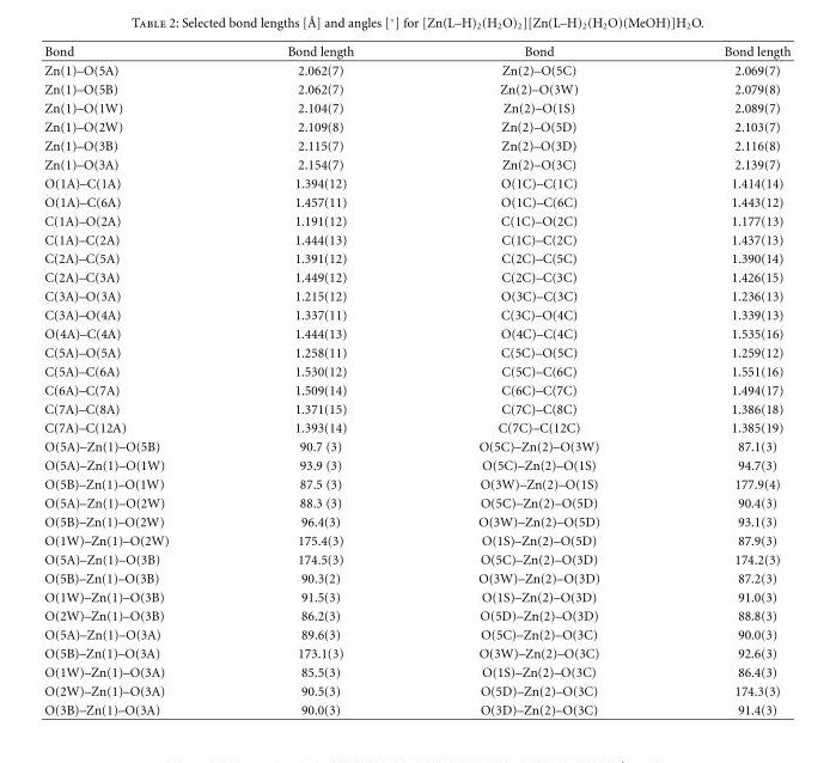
<table><thead><tr><td>Bond</td><td>Bond length</td><td>Bond</td><td>Bond length</td></tr></thead><tbody><tr><td>Zn(1)–O(5A)</td><td>2.062(7)</td><td>Zn(2)–O(5C)</td><td>2.069(7)</td></tr><tr><td>Zn(1)–O(5B)</td><td>2.062(7)</td><td>Zn(2)–O(3W)</td><td>2.079(8)</td></tr><tr><td>Zn(1)–O(1W)</td><td>2.104(7)</td><td>Zn(2)–O(1S)</td><td>2.089(7)</td></tr><tr><td>Zn(1)–O(2W)</td><td>2.109(8)</td><td>Zn(2)–O(5D)</td><td>2.103(7)</td></tr><tr><td>Zn(1)–O(3B)</td><td>2.115(7)</td><td>Zn(2)–O(3D)</td><td>2.116(8)</td></tr><tr><td>Zn(1)–O(3A)</td><td>2.154(7)</td><td>Zn(2)–O(3C)</td><td>2.139(7)</td></tr><tr><td>O(1A)–C(1A)</td><td>1.394(12)</td><td>O(1C)–C(1C)</td><td>1.414(14)</td></tr><tr><td>O(1A)–C(6A)</td><td>1.457(11)</td><td>O(1C)–C(6C)</td><td>1.443(12)</td></tr><tr><td>C(1A)–O(2A)</td><td>1.191(12)</td><td>C(1C)–O(2C)</td><td>1.177(13)</td></tr><tr><td>C(1A)–C(2A)</td><td>1.444(13)</td><td>C(1C)–C(2C)</td><td>1.437(13)</td></tr><tr><td>C(2A)–C(5A)</td><td>1.391(12)</td><td>C(2C)–C(5C)</td><td>1.390(14)</td></tr><tr><td>C(2A)–C(3A)</td><td>1.449(12)</td><td>C(2C)–C(3C)</td><td>1.426(15)</td></tr><tr><td>C(3A)–O(3A)</td><td>1.215(12)</td><td>O(3C)–C(3C)</td><td>1.236(13)</td></tr><tr><td>C(3A)–O(4A)</td><td>1.337(11)</td><td>C(3C)–O(4C)</td><td>1.339(13)</td></tr><tr><td>O(4A)–C(4A)</td><td>1.444(13)</td><td>O(4C)–C(4C)</td><td>1.535(16)</td></tr><tr><td>C(5A)–O(5A)</td><td>1.258(11)</td><td>C(5C)–O(5C)</td><td>1.259(12)</td></tr><tr><td>C(5A)–C(6A)</td><td>1.530(12)</td><td>C(5C)–C(6C)</td><td>1.551(16)</td></tr><tr><td>C(6A)–C(7A)</td><td>1.509(14)</td><td>C(6C)–C(7C)</td><td>1.494(17)</td></tr><tr><td>C(7A)–C(8A)</td><td>1.371(15)</td><td>C(7C)–C(8C)</td><td>1.386(18)</td></tr><tr><td>C(7A)–C(12A)</td><td>1.393(14)</td><td>C(7C)–C(12C)</td><td>1.385(19)</td></tr><tr><td>O(5A)–Zn(1)–O(5B)</td><td>90.7 (3)</td><td>O(5C)–Zn(2)–O(3W)</td><td>87.1(3)</td></tr><tr><td>O(5A)–Zn(1)–O(1W)</td><td>93.9 (3)</td><td>O(5C)–Zn(2)–O(1S)</td><td>94.7(3)</td></tr><tr><td>O(5B)–Zn(1)–O(1W)</td><td>87.5 (3)</td><td>O(3W)–Zn(2)–O(1S)</td><td>177.9(4)</td></tr><tr><td>O(5A)–Zn(1)–O(2W)</td><td>88.3 (3)</td><td>O(5C)–Zn(2)–O(5D)</td><td>90.4(3)</td></tr><tr><td>O(5B)–Zn(1)–O(2W)</td><td>96.4(3)</td><td>O(3W)–Zn(2)–O(5D)</td><td>93.1(3)</td></tr><tr><td>O(1W)–Zn(1)–O(2W)</td><td>175.4(3)</td><td>O(1S)–Zn(2)–O(5D)</td><td>87.9(3)</td></tr><tr><td>O(5A)–Zn(1)–O(3B)</td><td>174.5(3)</td><td>O(5C)–Zn(2)–O(3D)</td><td>174.2(3)</td></tr><tr><td>O(5B)–Zn(1)–O(3B)</td><td>90.3(2)</td><td>O(3W)–Zn(2)–O(3D)</td><td>87.2(3)</td></tr><tr><td>O(1W)–Zn(1)–O(3B)</td><td>91.5(3)</td><td>O(1S)–Zn(2)–O(3D)</td><td>91.0(3)</td></tr><tr><td>O(2W)–Zn(1)–O(3B)</td><td>86.2(3)</td><td>O(5D)–Zn(2)–O(3D)</td><td>88.8(3)</td></tr><tr><td>O(5A)–Zn(1)–O(3A)</td><td>89.6(3)</td><td>O(5C)–Zn(2)–O(3C)</td><td>90.0(3)</td></tr><tr><td>O(5B)–Zn(1)–O(3A)</td><td>173.1(3)</td><td>O(3W)–Zn(2)–O(3C)</td><td>92.6(3)</td></tr><tr><td>O(1W)–Zn(1)–O(3A)</td><td>85.5(3)</td><td>O(1S)–Zn(2)–O(3C)</td><td>86.4(3)</td></tr><tr><td>O(2W)–Zn(1)–O(3A)</td><td>90.5(3)</td><td>O(5D)–Zn(2)–O(3C)</td><td>174.3(3)</td></tr><tr><td>O(3B)–Zn(1)–O(3A)</td><td>90.0(3)</td><td>O(3D)–Zn(2)–O(3C)</td><td>91.4(3)</td></tr></tbody></table>